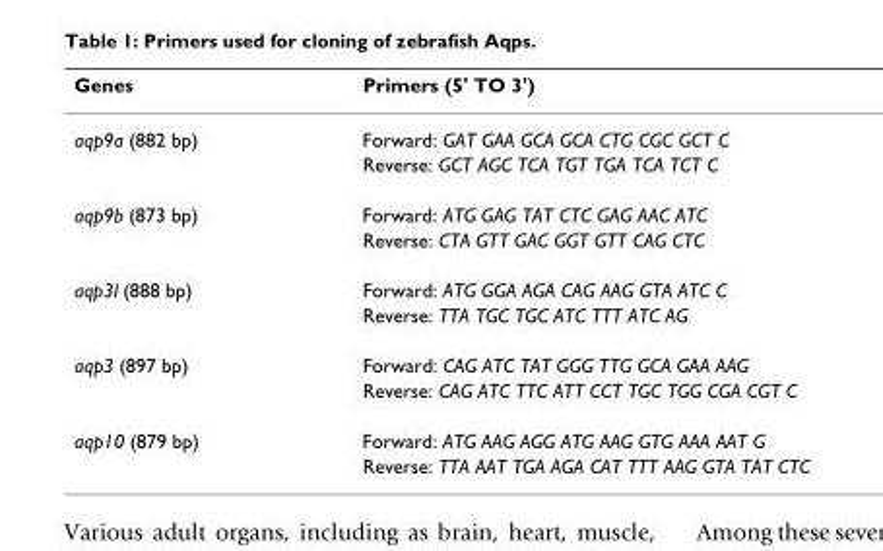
<table><thead><tr><td>Genes</td><td>Primers (5&#x27; TO 3&#x27;)</td></tr></thead><tbody><tr><td rowspan="2">aqp9a (882 bp)</td><td>Forward: GAT GAA GCA GCA CTG CGC GCT C</td></tr><tr><td>Reverse: GCT AGC TCA TGT TGA TCA TCT C</td></tr><tr><td rowspan="2">aqp9b (873 bp)</td><td>Forward: ATG GAG TAT CTC GAG AAC ATC</td></tr><tr><td>Reverse: CTA GTT GAC GGT GTT CAG CTC</td></tr><tr><td rowspan="2">aqp3l (888 bp)</td><td>Forward: ATG GGA AGA CAG AAG GTA ATC C</td></tr><tr><td>Reverse: TTA TGC TGC ATC TTT ATC AG</td></tr><tr><td rowspan="2">aqp3 (897 bp)</td><td>Forward: CAG ATC TAT GGG TTG GCA GAA AAG</td></tr><tr><td>Reverse: CAG ATC TTC ATT CCT TGC TGG CGA CGT C</td></tr><tr><td rowspan="2">aqp10 (879 bp)</td><td>Forward: ATG AAG AGG ATG AAG GTG AAA AAT G</td></tr><tr><td>Reverse: TTA AAT TGA AGA CAT TTT AAG GTA TAT CTC</td></tr></tbody></table>